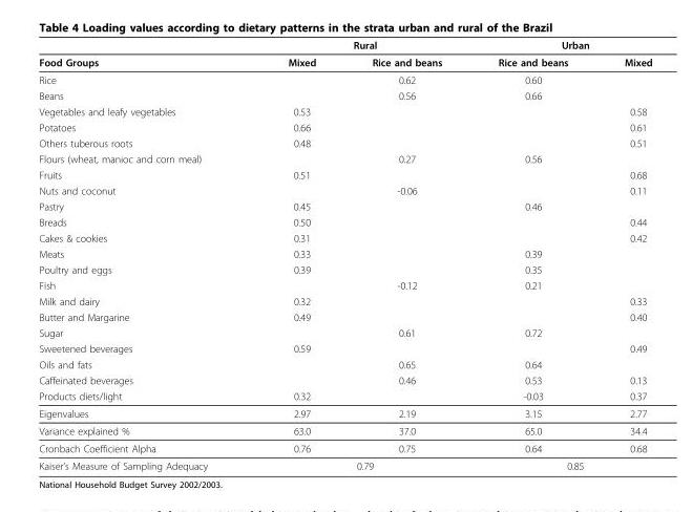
<table><thead><tr><td rowspan="2">Food Groups</td><td colspan="2">Rural</td><td colspan="2">Urban</td></tr><tr><td>Mixed</td><td>Rice and beans</td><td>Rice and beans</td><td>Mixed</td></tr></thead><tbody><tr><td>Rice</td><td></td><td>0.62</td><td>0.60</td><td></td></tr><tr><td>Beans</td><td></td><td>0.56</td><td>0.66</td><td></td></tr><tr><td>Vegetables and leafy vegetables</td><td>0.53</td><td></td><td></td><td>0.58</td></tr><tr><td>Potatoes</td><td>0.66</td><td></td><td></td><td>0.61</td></tr><tr><td>Others tuberous roots</td><td>0.48</td><td></td><td></td><td>0.51</td></tr><tr><td>Flours (wheat, manioc and corn meal)</td><td></td><td>0.27</td><td>0.56</td><td></td></tr><tr><td>Fruits</td><td>0.51</td><td></td><td></td><td>0.68</td></tr><tr><td>Nuts and coconut</td><td></td><td>-0.06</td><td></td><td>0.11</td></tr><tr><td>Pastry</td><td>0.45</td><td></td><td>0.46</td><td></td></tr><tr><td>Breads</td><td>0.50</td><td></td><td></td><td>0.44</td></tr><tr><td>Cakes &amp; cookies</td><td>0.31</td><td></td><td></td><td>0.42</td></tr><tr><td>Meats</td><td>0.33</td><td></td><td>0.39</td><td></td></tr><tr><td>Poultry and eggs</td><td>0.39</td><td></td><td>0.35</td><td></td></tr><tr><td>Fish</td><td></td><td>-0.12</td><td>0.21</td><td></td></tr><tr><td>Milk and dairy</td><td>0.32</td><td></td><td></td><td>0.33</td></tr><tr><td>Butter and Margarine</td><td>0.49</td><td></td><td></td><td>0.40</td></tr><tr><td>Sugar</td><td></td><td>0.61</td><td>0.72</td><td></td></tr><tr><td>Sweetened beverages</td><td>0.59</td><td></td><td></td><td>0.49</td></tr><tr><td>Oils and fats</td><td></td><td>0.65</td><td>0.64</td><td></td></tr><tr><td>Caffeinated beverages</td><td></td><td>0.46</td><td>0.53</td><td>0.13</td></tr><tr><td>Products diets/light</td><td>0.32</td><td></td><td>-0.03</td><td>0.37</td></tr><tr><td>Eigenvalues</td><td>2.97</td><td>2.19</td><td>3.15</td><td>2.77</td></tr><tr><td>Variance explained %</td><td>63.0</td><td>37.0</td><td>65.0</td><td>34.4</td></tr><tr><td>Cronbach Coefficient Alpha</td><td>0.76</td><td>0.75</td><td>0.64</td><td>0.68</td></tr><tr><td>Kaiser’s Measure of Sampling Adequacy</td><td colspan="2">0.79</td><td colspan="2">0.85</td></tr></tbody></table>